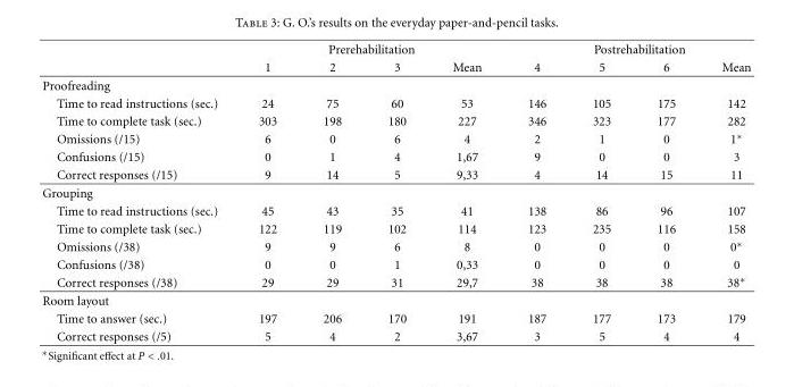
<table><thead><tr><td rowspan="2"></td><td colspan="4">Prerehabilitation</td><td colspan="4">Postrehabilitation</td></tr><tr><td>1</td><td>2</td><td>3</td><td>Mean</td><td>4</td><td>5</td><td>6</td><td>Mean</td></tr></thead><tbody><tr><td colspan="9">Proofreading</td></tr><tr><td>Time to read instructions (sec.)</td><td>24</td><td>75</td><td>60</td><td>53</td><td>146</td><td>105</td><td>175</td><td>142</td></tr><tr><td>Time to complete task (sec.)</td><td>303</td><td>198</td><td>180</td><td>227</td><td>346</td><td>323</td><td>177</td><td>282</td></tr><tr><td>Omissions (/15)</td><td>6</td><td>0</td><td>6</td><td>4</td><td>2</td><td>1</td><td>0</td><td>1∗</td></tr><tr><td>Confusions (/15)</td><td>0</td><td>1</td><td>4</td><td>1,67</td><td>9</td><td>0</td><td>0</td><td>3</td></tr><tr><td>Correct responses (/15)</td><td>9</td><td>14</td><td>5</td><td>9,33</td><td>4</td><td>14</td><td>15</td><td>11</td></tr><tr><td colspan="9">Grouping</td></tr><tr><td>Time to read instructions (sec.)</td><td>45</td><td>43</td><td>35</td><td>41</td><td>138</td><td>86</td><td>96</td><td>107</td></tr><tr><td>Time to complete task (sec.)</td><td>122</td><td>119</td><td>102</td><td>114</td><td>123</td><td>235</td><td>116</td><td>158</td></tr><tr><td>Omissions (/38)</td><td>9</td><td>9</td><td>6</td><td>8</td><td>0</td><td>0</td><td>0</td><td>0∗</td></tr><tr><td>Confusions (/38)</td><td>0</td><td>0</td><td>1</td><td>0,33</td><td>0</td><td>0</td><td>0</td><td>0</td></tr><tr><td>Correct responses (/38)</td><td>29</td><td>29</td><td>31</td><td>29,7</td><td>38</td><td>38</td><td>38</td><td>38∗</td></tr><tr><td colspan="9">Room layout</td></tr><tr><td>Time to answer (sec.)</td><td>197</td><td>206</td><td>170</td><td>191</td><td>187</td><td>177</td><td>173</td><td>179</td></tr><tr><td>Correct responses (/5)</td><td>5</td><td>4</td><td>2</td><td>3,67</td><td>3</td><td>5</td><td>4</td><td>4</td></tr></tbody></table>